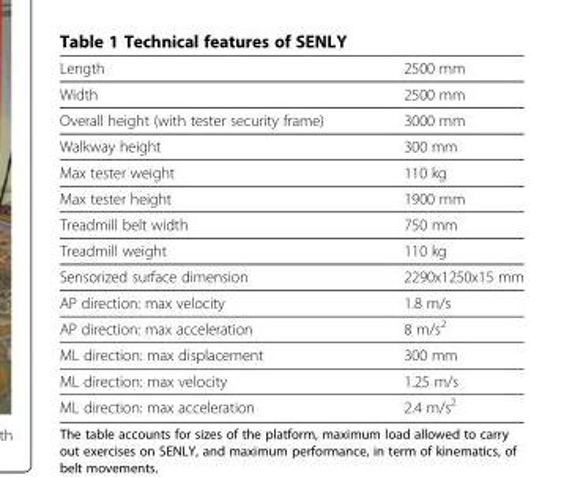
<table><thead><tr><td>Length</td><td>2500 mm</td></tr></thead><tbody><tr><td>Width</td><td>2500 mm</td></tr><tr><td>Overall height (with tester security frame)</td><td>3000 mm</td></tr><tr><td>Walkway height</td><td>300 mm</td></tr><tr><td>Max tester weight</td><td>110 kg</td></tr><tr><td>Max tester height</td><td>1900 mm</td></tr><tr><td>Treadmill belt width</td><td>750 mm</td></tr><tr><td>Treadmill weight</td><td>110 kg</td></tr><tr><td>Sensorized surface dimension</td><td>2290x1250x15 mm</td></tr><tr><td>AP direction: max velocity</td><td>1.8 m/s</td></tr><tr><td>AP direction: max acceleration</td><td>8 m/s<sup>2</sup></td></tr><tr><td>ML direction: max displacement</td><td>300 mm</td></tr><tr><td>ML direction: max velocity</td><td>1.25 m/s</td></tr><tr><td>ML direction: max acceleration</td><td>2.4 m/s<sup>2</sup></td></tr></tbody></table>